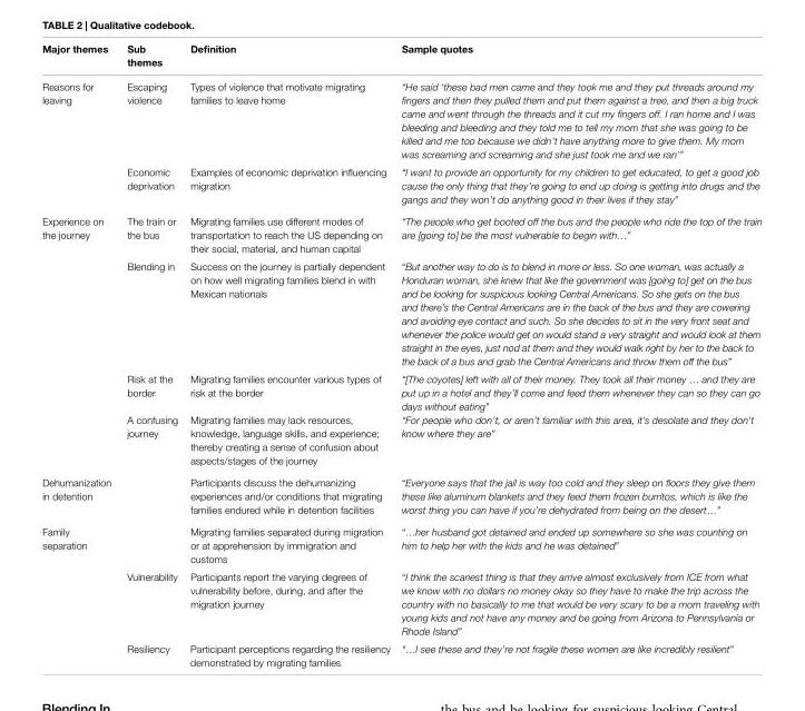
<table><thead><tr><td>Major themes</td><td>sub themes</td><td>Definition</td><td>sample quotes</td></tr></thead><tbody><tr><td rowspan="2">Reasons for leaving</td><td>Escaping violence</td><td>Types of violence that motivate migrating families to leave home</td><td>“He said ‘these bad men came and they took me and they put threads around my fingers and then they pulled them and put them against a tree, and then a big truck came and went through the threads and it cut my fingers off. I ran home and I was bleeding and bleeding and they told me to tell my mom that she was going to be killed and me too because we didn’t have anything more to give them. My mom was screaming and screaming and she just took me and we ran’”</td></tr><tr><td>Economic deprivation</td><td>Examples of economic deprivation influencing migration</td><td>“I want to provide an opportunity for my children to get educated, to get a good job cause the only thing that they’re going to end up doing is getting into drugs and the gangs and they won’t do anything good in their lives if they stay”</td></tr><tr><td rowspan="4">Experience on the journey</td><td>The train or the bus</td><td>Migrating families use different modes of transportation to reach the US depending on their social, material, and human capital</td><td>“The people who get booted off the bus and the people who ride the top of the train are [going to] be the most vulnerable to begin with…”</td></tr><tr><td>Blending in</td><td>Success on the journey is partially dependent on how well migrating families blend in with Mexican nationals</td><td>“But another way to do is to blend in more or less. So one woman, was actually a Honduran woman, she knew that like the government was [going to] get on the bus and be looking for suspicious looking Central Americans. So she gets on the bus and there’s the Central Americans are in the back of the bus and they are cowering and avoiding eye contact and such. So she decides to sit in the very front seat and whenever the police would get on would stand a very straight and would look at them straight in the eyes, just nod at them and they would walk right by her to the back to the back of a bus and grab the Central Americans and throw them off the bus”</td></tr><tr><td>Risk at the border</td><td>Migrating families encounter various types of risk at the border</td><td>“[The coyotes] left with all of their money. They took all their money … and they are put up in a hotel and they’ll come and feed them whenever they can so they can go days without eating”</td></tr><tr><td>A confusing journey</td><td>Migrating families may lack resources, knowledge, language skills, and experience; thereby creating a sense of confusion about aspects/stages of the journey</td><td>“For people who don’t, or aren’t familiar with this area, it’s desolate and they don’t know where they are”</td></tr><tr><td>Dehumanization in detention</td><td></td><td>Participants discuss the dehumanizing experiences and/or conditions that migrating families endured while in detention facilities</td><td>“Everyone says that the jail is way too cold and they sleep on floors they give them these like aluminum blankets and they feed them frozen burritos, which is like the worst thing you can have if you’re dehydrated from being on the desert…”</td></tr><tr><td rowspan="3">Family separation</td><td></td><td>Migrating families separated during migration or at apprehension by immigration and customs</td><td>“…her husband got detained and ended up somewhere so she was counting on him to help her with the kids and he was detained”</td></tr><tr><td>Vulnerability</td><td>Participants report the varying degrees of vulnerability before, during, and after the migration journey</td><td>“I think the scariest thing is that they arrive almost exclusively from ICE from what we know with no dollars no money okay so they have to make the trip across the country with no basically to me that would be very scary to be a mom traveling with young kids and not have any money and be going from Arizona to Pennsylvania or Rhode Island”</td></tr><tr><td>Resiliency</td><td>Participant perceptions regarding the resiliency demonstrated by migrating families</td><td>“…I see these and they’re not fragile these women are like incredibly resilient”</td></tr></tbody></table>